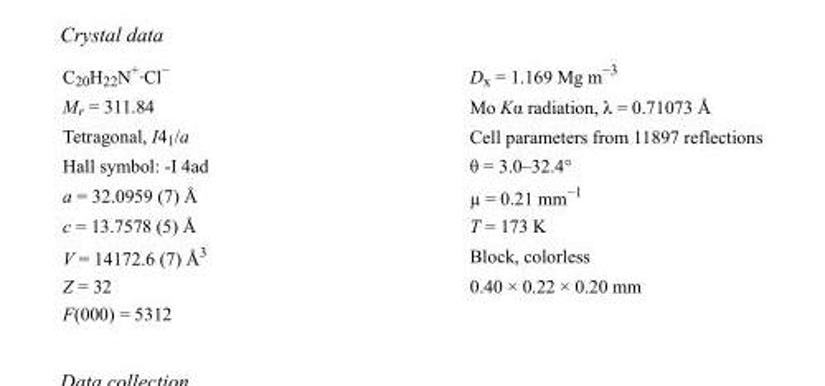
<table><tbody><tr><td>C<sub>20</sub>H<sub>22</sub>N<sup>+</sup>·Cl<sup>−</sup></td><td>D<sub>x</sub> = 1.169 Mg m<sup>−3</sup></td></tr><tr><td>M<sub>r</sub> = 311.84</td><td>Mo Kα radiation, λ = 0.71073 Å</td></tr><tr><td>Tetragonal, I4<sub>1</sub>/a</td><td>Cell parameters from 11897 reflections</td></tr><tr><td>Hall symbol: -I 4ad</td><td>θ = 3.0–32.4°</td></tr><tr><td>a = 32.0959 (7) Å</td><td>µ = 0.21 mm<sup>−1</sup></td></tr><tr><td>c = 13.7578 (5) Å</td><td>T = 173 K</td></tr><tr><td>V = 14172.6 (7) Å<sup>3</sup></td><td>Block, colorless</td></tr><tr><td>Z = 32</td><td>0.40 × 0.22 × 0.20 mm</td></tr><tr><td>F(000) = 5312</td><td></td></tr></tbody></table>